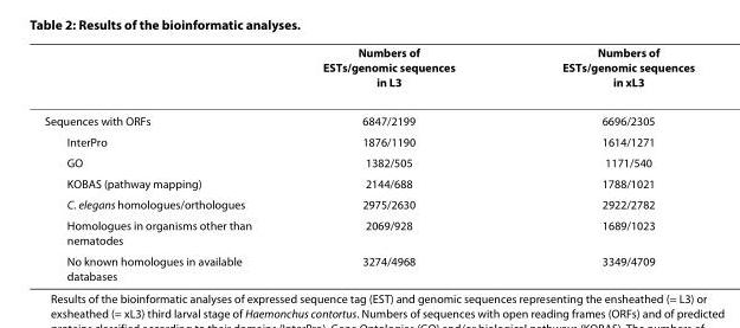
<table><thead><tr><td></td><td>Numbers of ESTs/genomic sequences in L3</td><td>Numbers of ESTs/genomic sequences in xL3</td></tr></thead><tbody><tr><td>Sequences with ORFs</td><td>6847/2199</td><td>6696/2305</td></tr><tr><td>InterPro</td><td>1876/1190</td><td>1614/1271</td></tr><tr><td>GO</td><td>1382/505</td><td>1171/540</td></tr><tr><td>KOBAS (pathway mapping)</td><td>2144/688</td><td>1788/1021</td></tr><tr><td>C. elegans homologues/orthologues</td><td>2975/2630</td><td>2922/2782</td></tr><tr><td>Homologues in organisms other than nematodes</td><td>2069/928</td><td>1689/1023</td></tr><tr><td>No known homologues in available databases</td><td>3274/4968</td><td>3349/4709</td></tr></tbody></table>